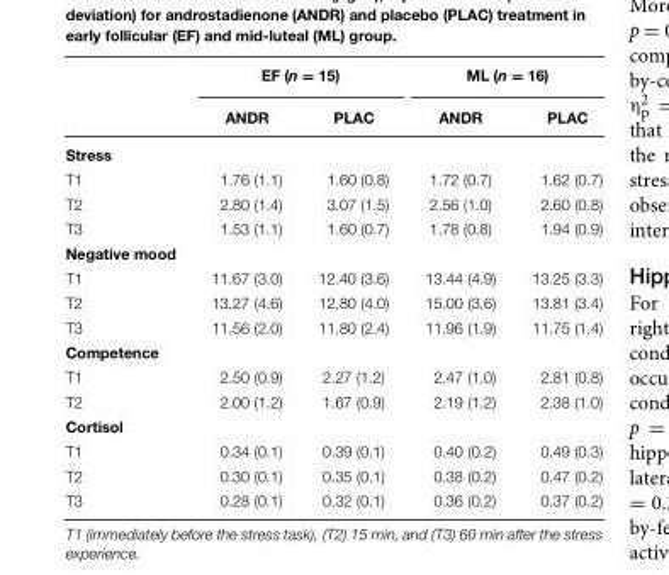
<table><thead><tr><td rowspan="2"></td><td colspan="2">EF (n = 15)</td><td colspan="2">ML (n = 16)</td></tr><tr><td>ANDR</td><td>PLAC</td><td>ANDR</td><td>PLAC</td></tr></thead><tbody><tr><td colspan="5">Stress</td></tr><tr><td>T1</td><td>1.76 (1.1)</td><td>1.60 (0.8)</td><td>1.72 (0.7)</td><td>1.62 (0.7)</td></tr><tr><td>T2</td><td>2.80 (1.4)</td><td>3.07 (1.5)</td><td>2.56 (1.0)</td><td>2.60 (0.8)</td></tr><tr><td>T3</td><td>1.53 (1.1)</td><td>1.60 (0.7)</td><td>1.78 (0.8)</td><td>1.94 (0.9)</td></tr><tr><td colspan="5">Negative mood</td></tr><tr><td>T1</td><td>11.67 (3.0)</td><td>12.40 (3.6)</td><td>13.44 (4.9)</td><td>13.25 (3.3)</td></tr><tr><td>T2</td><td>13.27 (4.6)</td><td>12.80 (4.0)</td><td>15.00 (3.6)</td><td>13.81 (3.4)</td></tr><tr><td>T3</td><td>11.56 (2.0)</td><td>11.80 (2.4)</td><td>11.96 (1.9)</td><td>11.75 (1.4)</td></tr><tr><td colspan="5">Competence</td></tr><tr><td>T1</td><td>2.50 (0.9)</td><td>2.27 (1.2)</td><td>2.47 (1.0)</td><td>2.81 (0.8)</td></tr><tr><td>T2</td><td>2.00 (1.2)</td><td>1.67 (0.9)</td><td>2.19 (1.2)</td><td>2.38 (1.0)</td></tr><tr><td colspan="5">Cortisol</td></tr><tr><td>T1</td><td>0.34 (0.1)</td><td>0.39 (0.1)</td><td>0.40 (0.2)</td><td>0.49 (0.3)</td></tr><tr><td>T2</td><td>0.30 (0.1)</td><td>0.35 (0.1)</td><td>0.38 (0.2)</td><td>0.47 (0.2)</td></tr><tr><td>T3</td><td>0.28 (0.1)</td><td>0.32 (0.1)</td><td>0.36 (0.2)</td><td>0.37 (0.2)</td></tr></tbody></table>